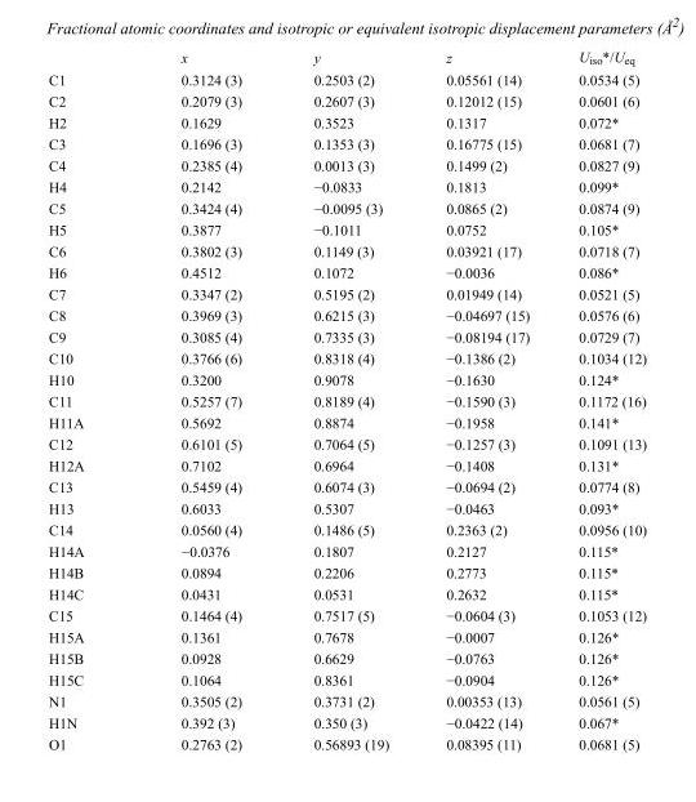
<table><thead><tr><td></td><td>x</td><td>y</td><td>z</td><td>U<sub>iso</sub>*/U<sub>eq</sub></td></tr></thead><tbody><tr><td>C1</td><td>0.3124 (3)</td><td>0.2503 (2)</td><td>0.05561 (14)</td><td>0.0534 (5)</td></tr><tr><td>C2</td><td>0.2079 (3)</td><td>0.2607 (3)</td><td>0.12012 (15)</td><td>0.0601 (6)</td></tr><tr><td>H2</td><td>0.1629</td><td>0.3523</td><td>0.1317</td><td>0.072*</td></tr><tr><td>C3</td><td>0.1696 (3)</td><td>0.1353 (3)</td><td>0.16775 (15)</td><td>0.0681 (7)</td></tr><tr><td>C4</td><td>0.2385 (4)</td><td>0.0013 (3)</td><td>0.1499 (2)</td><td>0.0827 (9)</td></tr><tr><td>H4</td><td>0.2142</td><td>−0.0833</td><td>0.1813</td><td>0.099*</td></tr><tr><td>C5</td><td>0.3424 (4)</td><td>−0.0095 (3)</td><td>0.0865 (2)</td><td>0.0874 (9)</td></tr><tr><td>H5</td><td>0.3877</td><td>−0.1011</td><td>0.0752</td><td>0.105*</td></tr><tr><td>C6</td><td>0.3802 (3)</td><td>0.1149 (3)</td><td>0.03921 (17)</td><td>0.0718 (7)</td></tr><tr><td>H6</td><td>0.4512</td><td>0.1072</td><td>−0.0036</td><td>0.086*</td></tr><tr><td>C7</td><td>0.3347 (2)</td><td>0.5195 (2)</td><td>0.01949 (14)</td><td>0.0521 (5)</td></tr><tr><td>C8</td><td>0.3969 (3)</td><td>0.6215 (3)</td><td>−0.04697 (15)</td><td>0.0576 (6)</td></tr><tr><td>C9</td><td>0.3085 (4)</td><td>0.7335 (3)</td><td>−0.08194 (17)</td><td>0.0729 (7)</td></tr><tr><td>C10</td><td>0.3766 (6)</td><td>0.8318 (4)</td><td>−0.1386 (2)</td><td>0.1034 (12)</td></tr><tr><td>H10</td><td>0.3200</td><td>0.9078</td><td>−0.1630</td><td>0.124*</td></tr><tr><td>C11</td><td>0.5257 (7)</td><td>0.8189 (4)</td><td>−0.1590 (3)</td><td>0.1172 (16)</td></tr><tr><td>H11A</td><td>0.5692</td><td>0.8874</td><td>−0.1958</td><td>0.141*</td></tr><tr><td>C12</td><td>0.6101 (5)</td><td>0.7064 (5)</td><td>−0.1257 (3)</td><td>0.1091 (13)</td></tr><tr><td>H12A</td><td>0.7102</td><td>0.6964</td><td>−0.1408</td><td>0.131*</td></tr><tr><td>C13</td><td>0.5459 (4)</td><td>0.6074 (3)</td><td>−0.0694 (2)</td><td>0.0774 (8)</td></tr><tr><td>H13</td><td>0.6033</td><td>0.5307</td><td>−0.0463</td><td>0.093*</td></tr><tr><td>C14</td><td>0.0560 (4)</td><td>0.1486 (5)</td><td>0.2363 (2)</td><td>0.0956 (10)</td></tr><tr><td>H14A</td><td>−0.0376</td><td>0.1807</td><td>0.2127</td><td>0.115*</td></tr><tr><td>H14B</td><td>0.0894</td><td>0.2206</td><td>0.2773</td><td>0.115*</td></tr><tr><td>H14C</td><td>0.0431</td><td>0.0531</td><td>0.2632</td><td>0.115*</td></tr><tr><td>C15</td><td>0.1464 (4)</td><td>0.7517 (5)</td><td>−0.0604 (3)</td><td>0.1053 (12)</td></tr><tr><td>H15A</td><td>0.1361</td><td>0.7678</td><td>−0.0007</td><td>0.126*</td></tr><tr><td>H15B</td><td>0.0928</td><td>0.6629</td><td>−0.0763</td><td>0.126*</td></tr><tr><td>H15C</td><td>0.1064</td><td>0.8361</td><td>−0.0904</td><td>0.126*</td></tr><tr><td>N1</td><td>0.3505 (2)</td><td>0.3731 (2)</td><td>0.00353 (13)</td><td>0.0561 (5)</td></tr><tr><td>H1N</td><td>0.392 (3)</td><td>0.350 (3)</td><td>−0.0422 (14)</td><td>0.067*</td></tr><tr><td>O1</td><td>0.2763 (2)</td><td>0.56893 (19)</td><td>0.08395 (11)</td><td>0.0681 (5)</td></tr></tbody></table>